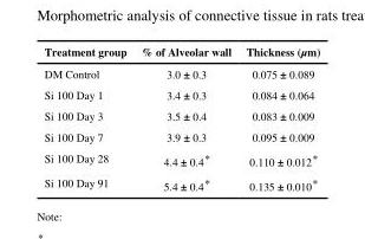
<table><thead><tr><td>Treatment group</td><td>% of Alveolar wall</td><td>Thickness (μm)</td></tr></thead><tbody><tr><td>DM Control</td><td>3.0 ± 0.3</td><td>0.075 ± 0.089</td></tr><tr><td>Si 100 Day 1</td><td>3.4 ± 0.3</td><td>0.084 ± 0.064</td></tr><tr><td>Si 100 Day 3</td><td>3.5 ± 0.4</td><td>0.083 ± 0.009</td></tr><tr><td>Si 100 Day 7</td><td>3.9 ± 0.3</td><td>0.095 ± 0.009</td></tr><tr><td>Si 100 Day 28</td><td>4.4 ± 0.4*</td><td>0.110 ± 0.012*</td></tr><tr><td>Si 100 Day 91</td><td>5.4 ± 0.4*</td><td>0.135 ± 0.010*</td></tr></tbody></table>